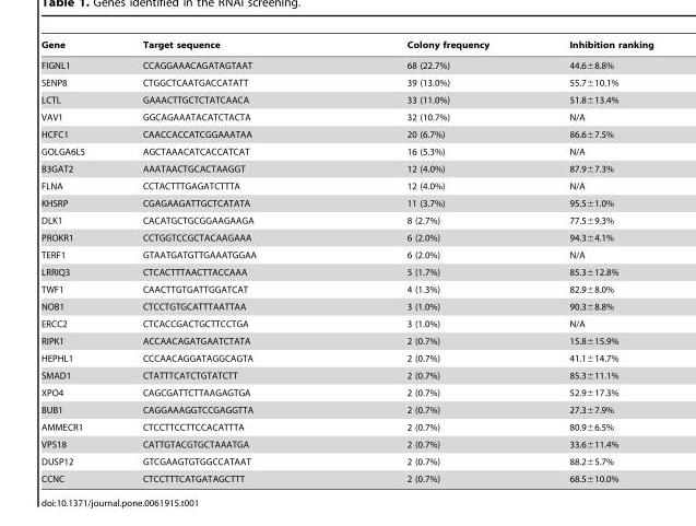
<table><thead><tr><td>Gene</td><td>Target sequence</td><td>Colony frequency</td><td>Inhibition ranking</td></tr></thead><tbody><tr><td>FIGNL1</td><td>CCAGGAAACAGATAGTAAT</td><td>68 (22.7%)</td><td>44.6±8.8%</td></tr><tr><td>SENP8</td><td>CTGGCTCAATGACCATATT</td><td>39 (13.0%)</td><td>55.7±10.1%</td></tr><tr><td>LCTL</td><td>GAAACTTGCTCTATCAACA</td><td>33 (11.0%)</td><td>51.8±13.4%</td></tr><tr><td>VAV1</td><td>GGCAGAAATACATCTACTA</td><td>32 (10.7%)</td><td>N/A</td></tr><tr><td>HCFC1</td><td>CAACCACCATCGGAAATAA</td><td>20 (6.7%)</td><td>86.6±7.5%</td></tr><tr><td>GOLGA6L5</td><td>AGCTAAACATCACCATCAT</td><td>16 (5.3%)</td><td>N/A</td></tr><tr><td>B3GAT2</td><td>AAATAACTGCACTAAGGT</td><td>12 (4.0%)</td><td>87.9±7.3%</td></tr><tr><td>FLNA</td><td>CCTACTTTGAGATCTTTA</td><td>12 (4.0%)</td><td>N/A</td></tr><tr><td>KHSRP</td><td>CGAGAAGATTGCTCATATA</td><td>11 (3.7%)</td><td>95.5±1.0%</td></tr><tr><td>DLK1</td><td>CACATGCTGCGGAAGAAGA</td><td>8 (2.7%)</td><td>77.5±9.3%</td></tr><tr><td>PROKR1</td><td>CCTGGTCCGCTACAAGAAA</td><td>6 (2.0%)</td><td>94.3±4.1%</td></tr><tr><td>TERF1</td><td>GTAATGATGTTGAAATGGAA</td><td>6 (2.0%)</td><td>N/A</td></tr><tr><td>LRRIQ3</td><td>CTCACTTTAACTTACCAAA</td><td>5 (1.7%)</td><td>85.3±12.8%</td></tr><tr><td>TWF1</td><td>CAACTTGTGATTGGATCAT</td><td>4 (1.3%)</td><td>82.9±8.0%</td></tr><tr><td>NOB1</td><td>CTCCTGTGCATTTAATTAA</td><td>3 (1.0%)</td><td>90.3±8.8%</td></tr><tr><td>ERCC2</td><td>CTCACCGACTGCTTCCTGA</td><td>3 (1.0%)</td><td>N/A</td></tr><tr><td>RIPK1</td><td>ACCAACAGATGAATCTATA</td><td>2 (0.7%)</td><td>15.8±15.9%</td></tr><tr><td>HEPHL1</td><td>CCCAACAGGATAGGCAGTA</td><td>2 (0.7%)</td><td>41.1±14.7%</td></tr><tr><td>SMAD1</td><td>CTATTTCATCTGTATCTT</td><td>2 (0.7%)</td><td>85.3±11.1%</td></tr><tr><td>XPO4</td><td>CAGCGATTCTTAAGAGTGA</td><td>2 (0.7%)</td><td>52.9±17.3%</td></tr><tr><td>BUB1</td><td>CAGGAAAGGTCCGAGGTTA</td><td>2 (0.7%)</td><td>27.3±7.9%</td></tr><tr><td>AMMECR1</td><td>CTCCTTCCTTCCACATTTA</td><td>2 (0.7%)</td><td>80.9±6.5%</td></tr><tr><td>VPS18</td><td>CATTGTACGTGCTAAATGA</td><td>2 (0.7%)</td><td>33.6±11.4%</td></tr><tr><td>DUSP12</td><td>GTCGAAGTGTGGCCATAAT</td><td>2 (0.7%)</td><td>88.2±5.7%</td></tr><tr><td>CCNC</td><td>CTCCTTTCATGATAGCTTT</td><td>2 (0.7%)</td><td>68.5±10.0%</td></tr></tbody></table>